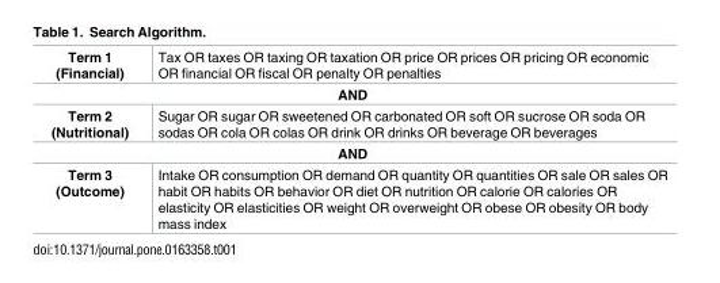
<table><tbody><tr><td>Term 1 (Financial)</td><td>Tax OR taxes OR taxing OR taxation OR price OR prices OR pricing OR economic OR financial OR fiscal OR penalty OR penalties</td></tr><tr><td colspan="2">AND</td></tr><tr><td>Term 2 (Nutritional)</td><td>Sugar OR sugar OR sweetened OR carbonated OR soft OR sucrose OR soda OR sodas OR cola OR colas OR drink OR drinks OR beverage OR beverages</td></tr><tr><td colspan="2">AND</td></tr><tr><td>Term 3 (Outcome)</td><td>Intake OR consumption OR demand OR quantity OR quantities OR sale OR sales OR habit OR habits OR behavior OR diet OR nutrition OR calorie OR calories OR elasticity OR elasticities OR weight OR overweight OR obese OR obesity OR body mass index</td></tr></tbody></table>